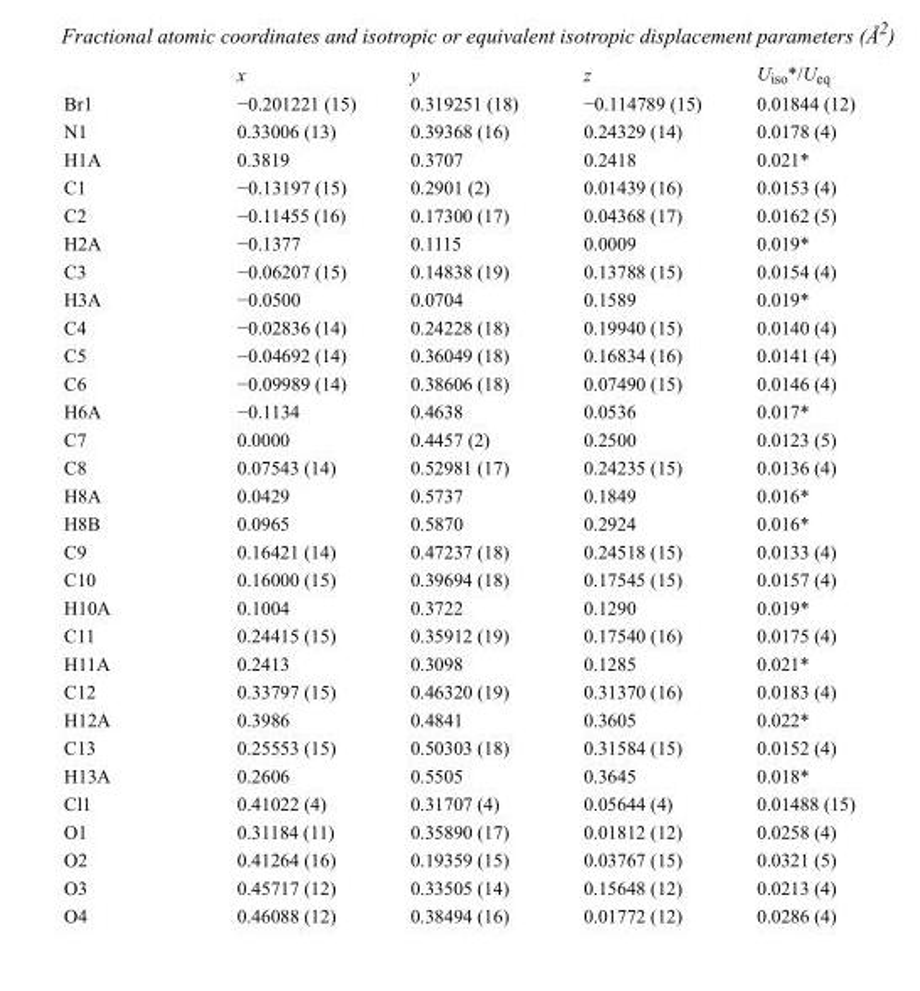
<table><thead><tr><td></td><td>x</td><td>y</td><td>z</td><td>U<sub>iso</sub>*/U<sub>eq</sub></td></tr></thead><tbody><tr><td>Br1</td><td>−0.201221 (15)</td><td>0.319251 (18)</td><td>−0.114789 (15)</td><td>0.01844 (12)</td></tr><tr><td>N1</td><td>0.33006 (13)</td><td>0.39368 (16)</td><td>0.24329 (14)</td><td>0.0178 (4)</td></tr><tr><td>H1A</td><td>0.3819</td><td>0.3707</td><td>0.2418</td><td>0.021*</td></tr><tr><td>C1</td><td>−0.13197 (15)</td><td>0.2901 (2)</td><td>0.01439 (16)</td><td>0.0153 (4)</td></tr><tr><td>C2</td><td>−0.11455 (16)</td><td>0.17300 (17)</td><td>0.04368 (17)</td><td>0.0162 (5)</td></tr><tr><td>H2A</td><td>−0.1377</td><td>0.1115</td><td>0.0009</td><td>0.019*</td></tr><tr><td>C3</td><td>−0.06207 (15)</td><td>0.14838 (19)</td><td>0.13788 (15)</td><td>0.0154 (4)</td></tr><tr><td>H3A</td><td>−0.0500</td><td>0.0704</td><td>0.1589</td><td>0.019*</td></tr><tr><td>C4</td><td>−0.02836 (14)</td><td>0.24228 (18)</td><td>0.19940 (15)</td><td>0.0140 (4)</td></tr><tr><td>C5</td><td>−0.04692 (14)</td><td>0.36049 (18)</td><td>0.16834 (16)</td><td>0.0141 (4)</td></tr><tr><td>C6</td><td>−0.09989 (14)</td><td>0.38606 (18)</td><td>0.07490 (15)</td><td>0.0146 (4)</td></tr><tr><td>H6A</td><td>−0.1134</td><td>0.4638</td><td>0.0536</td><td>0.017*</td></tr><tr><td>C7</td><td>0.0000</td><td>0.4457 (2)</td><td>0.2500</td><td>0.0123 (5)</td></tr><tr><td>C8</td><td>0.07543 (14)</td><td>0.52981 (17)</td><td>0.24235 (15)</td><td>0.0136 (4)</td></tr><tr><td>H8A</td><td>0.0429</td><td>0.5737</td><td>0.1849</td><td>0.016*</td></tr><tr><td>H8B</td><td>0.0965</td><td>0.5870</td><td>0.2924</td><td>0.016*</td></tr><tr><td>C9</td><td>0.16421 (14)</td><td>0.47237 (18)</td><td>0.24518 (15)</td><td>0.0133 (4)</td></tr><tr><td>C10</td><td>0.16000 (15)</td><td>0.39694 (18)</td><td>0.17545 (15)</td><td>0.0157 (4)</td></tr><tr><td>H10A</td><td>0.1004</td><td>0.3722</td><td>0.1290</td><td>0.019*</td></tr><tr><td>C11</td><td>0.24415 (15)</td><td>0.35912 (19)</td><td>0.17540 (16)</td><td>0.0175 (4)</td></tr><tr><td>H11A</td><td>0.2413</td><td>0.3098</td><td>0.1285</td><td>0.021*</td></tr><tr><td>C12</td><td>0.33797 (15)</td><td>0.46320 (19)</td><td>0.31370 (16)</td><td>0.0183 (4)</td></tr><tr><td>H12A</td><td>0.3986</td><td>0.4841</td><td>0.3605</td><td>0.022*</td></tr><tr><td>C13</td><td>0.25553 (15)</td><td>0.50303 (18)</td><td>0.31584 (15)</td><td>0.0152 (4)</td></tr><tr><td>H13A</td><td>0.2606</td><td>0.5505</td><td>0.3645</td><td>0.018*</td></tr><tr><td>Cl1</td><td>0.41022 (4)</td><td>0.31707 (4)</td><td>0.05644 (4)</td><td>0.01488 (15)</td></tr><tr><td>O1</td><td>0.31184 (11)</td><td>0.35890 (17)</td><td>0.01812 (12)</td><td>0.0258 (4)</td></tr><tr><td>O2</td><td>0.41264 (16)</td><td>0.19359 (15)</td><td>0.03767 (15)</td><td>0.0321 (5)</td></tr><tr><td>O3</td><td>0.45717 (12)</td><td>0.33505 (14)</td><td>0.15648 (12)</td><td>0.0213 (4)</td></tr><tr><td>O4</td><td>0.46088 (12)</td><td>0.38494 (16)</td><td>0.01772 (12)</td><td>0.0286 (4)</td></tr></tbody></table>